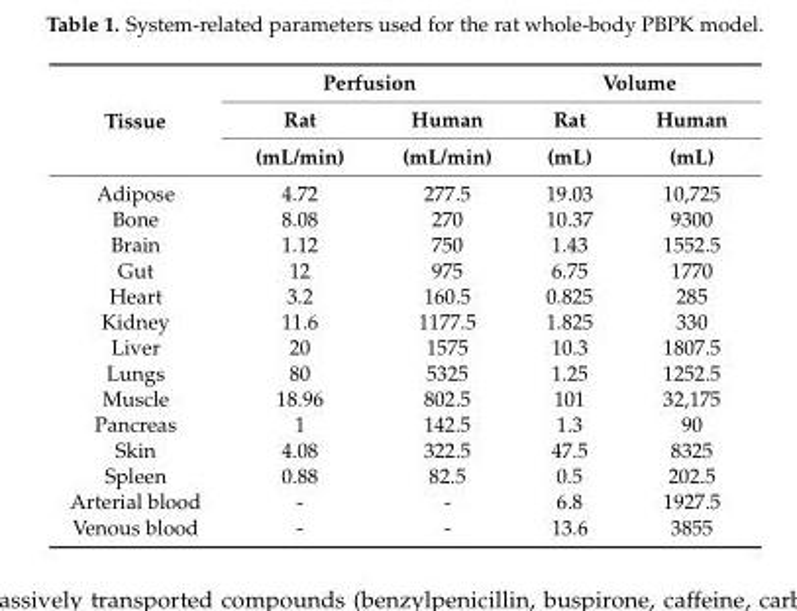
<table><thead><tr><td rowspan="3">Tissue</td><td colspan="2">Perfusion</td><td colspan="2">Volume</td></tr><tr><td rowspan="2">Rat (mL/min)</td><td rowspan="2">Human (mL/min)</td><td rowspan="2">Rat (mL)</td><td rowspan="2">Human (mL)</td></tr><tr></tr></thead><tbody><tr><td>Adipose</td><td>4.72</td><td>277.5</td><td>19.03</td><td>10,725</td></tr><tr><td>Bone</td><td>8.08</td><td>270</td><td>10.37</td><td>9300</td></tr><tr><td>Brain</td><td>1.12</td><td>750</td><td>1.43</td><td>1552.5</td></tr><tr><td>Gut</td><td>12</td><td>975</td><td>6.75</td><td>1770</td></tr><tr><td>Heart</td><td>3.2</td><td>160.5</td><td>0.825</td><td>285</td></tr><tr><td>Kidney</td><td>11.6</td><td>1177.5</td><td>1.825</td><td>330</td></tr><tr><td>Liver</td><td>20</td><td>1575</td><td>10.3</td><td>1807.5</td></tr><tr><td>Lungs</td><td>80</td><td>5325</td><td>1.25</td><td>1252.5</td></tr><tr><td>Muscle</td><td>18.96</td><td>802.5</td><td>101</td><td>32,175</td></tr><tr><td>Pancreas</td><td>1</td><td>142.5</td><td>1.3</td><td>90</td></tr><tr><td>Skin</td><td>4.08</td><td>322.5</td><td>47.5</td><td>8325</td></tr><tr><td>Spleen</td><td>0.88</td><td>82.5</td><td>0.5</td><td>202.5</td></tr><tr><td>Arterial blood</td><td>-</td><td>-</td><td>6.8</td><td>1927.5</td></tr><tr><td>Venous blood</td><td>-</td><td>-</td><td>13.6</td><td>3855</td></tr></tbody></table>